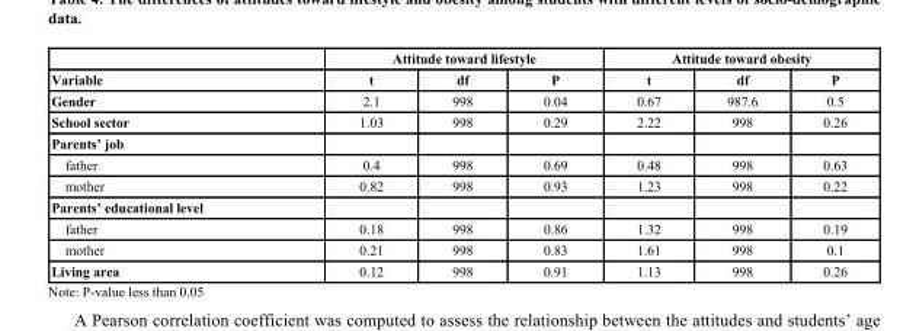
<table><thead><tr><td rowspan="2">Variable</td><td colspan="3">Attitude toward lifestyle</td><td colspan="3">Attitude toward obesity</td></tr><tr><td>t</td><td>df</td><td>P</td><td>t</td><td>df</td><td>P</td></tr></thead><tbody><tr><td>Gender</td><td>2.1</td><td>998</td><td>0.04</td><td>0.67</td><td>987.6</td><td>0.5</td></tr><tr><td>School sector</td><td>1.03</td><td>998</td><td>0.29</td><td>2.22</td><td>998</td><td>0.26</td></tr><tr><td colspan="7">Parents’ job</td></tr><tr><td>father</td><td>0.4</td><td>998</td><td>0.69</td><td>0.48</td><td>998</td><td>0.63</td></tr><tr><td>mother</td><td>0.82</td><td>998</td><td>0.93</td><td>1.23</td><td>998</td><td>0.22</td></tr><tr><td colspan="7">Parents’ educational level</td></tr><tr><td>father</td><td>0.18</td><td>998</td><td>0.86</td><td>1.32</td><td>998</td><td>0.19</td></tr><tr><td>mother</td><td>0.21</td><td>998</td><td>0.83</td><td>1.61</td><td>998</td><td>0.1</td></tr><tr><td>Living area</td><td>0.12</td><td>998</td><td>0.91</td><td>1.13</td><td>998</td><td>0.26</td></tr></tbody></table>